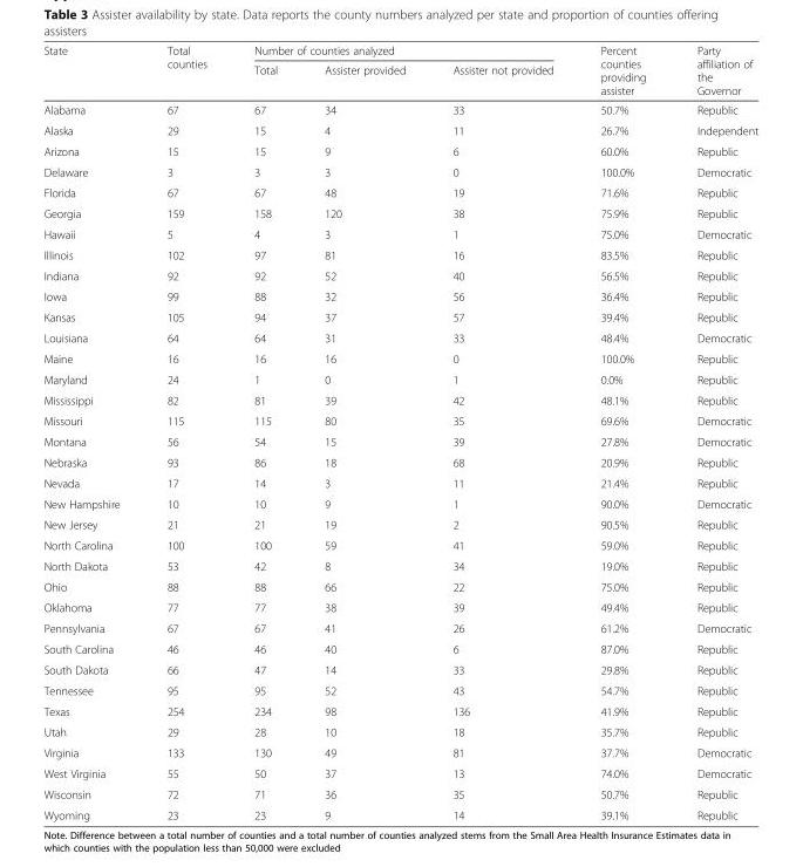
<table><thead><tr><td rowspan="2">State</td><td rowspan="2">Total counties</td><td colspan="3">Number of counties analyzed</td><td rowspan="2">Percent counties providing assister</td><td rowspan="2">Party affiliation of the Governor</td></tr><tr><td>Total</td><td>Assister provided</td><td>Assister not provided</td></tr></thead><tbody><tr><td>Alabama</td><td>67</td><td>67</td><td>34</td><td>33</td><td>50.7%</td><td>Republic</td></tr><tr><td>Alaska</td><td>29</td><td>15</td><td>4</td><td>11</td><td>26.7%</td><td>Independent</td></tr><tr><td>Arizona</td><td>15</td><td>15</td><td>9</td><td>6</td><td>60.0%</td><td>Republic</td></tr><tr><td>Delaware</td><td>3</td><td>3</td><td>3</td><td>0</td><td>100.0%</td><td>Democratic</td></tr><tr><td>Florida</td><td>67</td><td>67</td><td>48</td><td>19</td><td>71.6%</td><td>Republic</td></tr><tr><td>Georgia</td><td>159</td><td>158</td><td>120</td><td>38</td><td>75.9%</td><td>Republic</td></tr><tr><td>Hawaii</td><td>5</td><td>4</td><td>3</td><td>1</td><td>75.0%</td><td>Democratic</td></tr><tr><td>Illinois</td><td>102</td><td>97</td><td>81</td><td>16</td><td>83.5%</td><td>Republic</td></tr><tr><td>Indiana</td><td>92</td><td>92</td><td>52</td><td>40</td><td>56.5%</td><td>Republic</td></tr><tr><td>Iowa</td><td>99</td><td>88</td><td>32</td><td>56</td><td>36.4%</td><td>Republic</td></tr><tr><td>Kansas</td><td>105</td><td>94</td><td>37</td><td>57</td><td>39.4%</td><td>Republic</td></tr><tr><td>Louisiana</td><td>64</td><td>64</td><td>31</td><td>33</td><td>48.4%</td><td>Democratic</td></tr><tr><td>Maine</td><td>16</td><td>16</td><td>16</td><td>0</td><td>100.0%</td><td>Republic</td></tr><tr><td>Maryland</td><td>24</td><td>1</td><td>0</td><td>1</td><td>0.0%</td><td>Republic</td></tr><tr><td>Mississippi</td><td>82</td><td>81</td><td>39</td><td>42</td><td>48.1%</td><td>Republic</td></tr><tr><td>Missouri</td><td>115</td><td>115</td><td>80</td><td>35</td><td>69.6%</td><td>Democratic</td></tr><tr><td>Montana</td><td>56</td><td>54</td><td>15</td><td>39</td><td>27.8%</td><td>Democratic</td></tr><tr><td>Nebraska</td><td>93</td><td>86</td><td>18</td><td>68</td><td>20.9%</td><td>Republic</td></tr><tr><td>Nevada</td><td>17</td><td>14</td><td>3</td><td>11</td><td>21.4%</td><td>Republic</td></tr><tr><td>New Hampshire</td><td>10</td><td>10</td><td>9</td><td>1</td><td>90.0%</td><td>Democratic</td></tr><tr><td>New Jersey</td><td>21</td><td>21</td><td>19</td><td>2</td><td>90.5%</td><td>Republic</td></tr><tr><td>North Carolina</td><td>100</td><td>100</td><td>59</td><td>41</td><td>59.0%</td><td>Republic</td></tr><tr><td>North Dakota</td><td>53</td><td>42</td><td>8</td><td>34</td><td>19.0%</td><td>Republic</td></tr><tr><td>Ohio</td><td>88</td><td>88</td><td>66</td><td>22</td><td>75.0%</td><td>Republic</td></tr><tr><td>Oklahoma</td><td>77</td><td>77</td><td>38</td><td>39</td><td>49.4%</td><td>Republic</td></tr><tr><td>Pennsylvania</td><td>67</td><td>67</td><td>41</td><td>26</td><td>61.2%</td><td>Democratic</td></tr><tr><td>South Carolina</td><td>46</td><td>46</td><td>40</td><td>6</td><td>87.0%</td><td>Republic</td></tr><tr><td>South Dakota</td><td>66</td><td>47</td><td>14</td><td>33</td><td>29.8%</td><td>Republic</td></tr><tr><td>Tennessee</td><td>95</td><td>95</td><td>52</td><td>43</td><td>54.7%</td><td>Republic</td></tr><tr><td>Texas</td><td>254</td><td>234</td><td>98</td><td>136</td><td>41.9%</td><td>Republic</td></tr><tr><td>Utah</td><td>29</td><td>28</td><td>10</td><td>18</td><td>35.7%</td><td>Republic</td></tr><tr><td>Virginia</td><td>133</td><td>130</td><td>49</td><td>81</td><td>37.7%</td><td>Democratic</td></tr><tr><td>West Virginia</td><td>55</td><td>50</td><td>37</td><td>13</td><td>74.0%</td><td>Democratic</td></tr><tr><td>Wisconsin</td><td>72</td><td>71</td><td>36</td><td>35</td><td>50.7%</td><td>Republic</td></tr><tr><td>Wyoming</td><td>23</td><td>23</td><td>9</td><td>14</td><td>39.1%</td><td>Republic</td></tr></tbody></table>